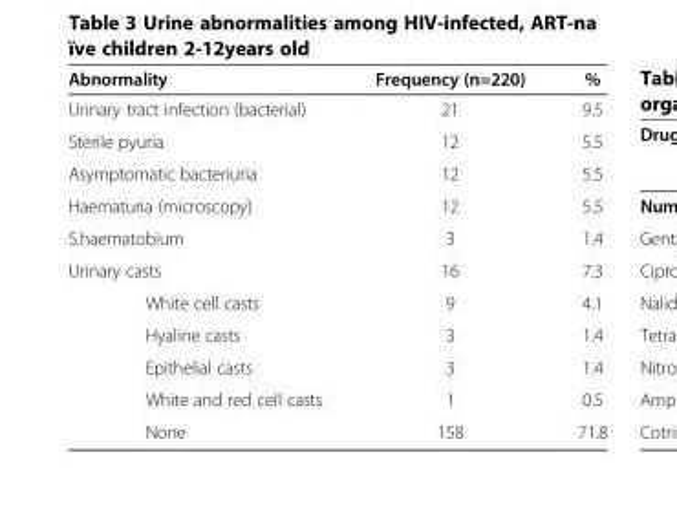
<table><thead><tr><td>Abnormality</td><td>Frequency (n=220)</td><td>%</td></tr></thead><tbody><tr><td>Urinary tract infection (bacterial)</td><td>21</td><td>9.5</td></tr><tr><td>Sterile pyuria</td><td>12</td><td>5.5</td></tr><tr><td>Asymptomatic bacteriuria</td><td>12</td><td>5.5</td></tr><tr><td>Haematuria (microscopy)</td><td>12</td><td>5.5</td></tr><tr><td>S.haematobium</td><td>3</td><td>1.4</td></tr><tr><td>Urinary casts</td><td>16</td><td>7.3</td></tr><tr><td>White cell casts</td><td>9</td><td>4.1</td></tr><tr><td>Hyaline casts</td><td>3</td><td>1.4</td></tr><tr><td>Epithelial casts</td><td>3</td><td>1.4</td></tr><tr><td>White and red cell casts</td><td>1</td><td>0.5</td></tr><tr><td>None</td><td>158</td><td>71.8</td></tr></tbody></table>